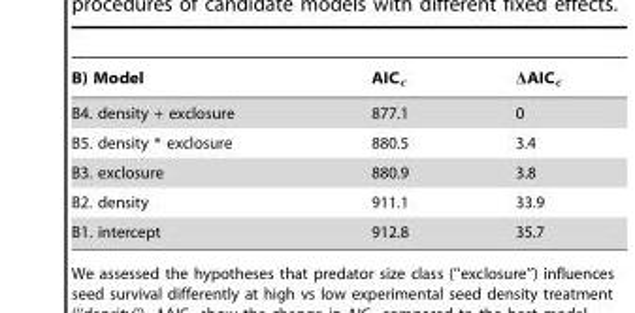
<table><thead><tr><td>B) Model</td><td>AIC<sub>c</sub></td><td>ΔAIC<sub>c</sub></td></tr></thead><tbody><tr><td>B4. density + exclosure</td><td>877.1</td><td>0</td></tr><tr><td>B5. density * exclosure</td><td>880.5</td><td>3.4</td></tr><tr><td>B3. exclosure</td><td>880.9</td><td>3.8</td></tr><tr><td>B2. density</td><td>911.1</td><td>33.9</td></tr><tr><td>B1. intercept</td><td>912.8</td><td>35.7</td></tr></tbody></table>